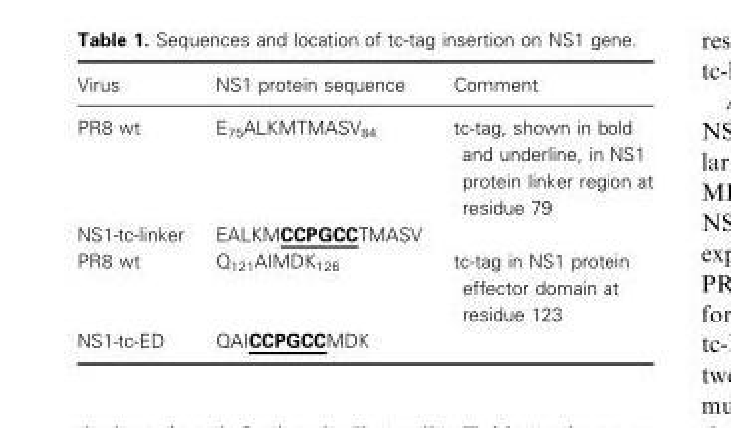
<table><thead><tr><td>Virus</td><td>NS1 protein sequence</td><td>Comment</td></tr></thead><tbody><tr><td>PR8 wt</td><td>E<sub>75</sub>ALKMTMASV<sub>84</sub></td><td>tc-tag, shown in bold and underline, in NS1 protein linker region at residue 79</td></tr><tr><td>NS1-tc-linker</td><td>EALKMCCPGCCTMASV</td><td></td></tr><tr><td>PR8 wt</td><td>Q<sub>121</sub>AIMDK<sub>126</sub></td><td>tc-tag in NS1 protein effector domain at residue 123</td></tr><tr><td>NS1-tc-ED</td><td>QAICCPGCCMDK</td><td></td></tr></tbody></table>